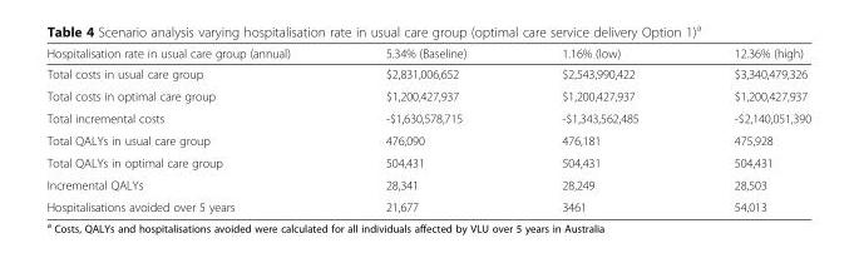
<table><thead><tr><td>Hospitalisation rate in usual care group (annual)</td><td>5.34% (Baseline)</td><td>1.16% (low)</td><td>12.36% (high)</td></tr></thead><tbody><tr><td>Total costs in usual care group</td><td>$2,831,006,652</td><td>$2,543,990,422</td><td>$3,340,479,326</td></tr><tr><td>Total costs in optimal care group</td><td>$1,200,427,937</td><td>$1,200,427,937</td><td>$1,200,427,937</td></tr><tr><td>Total incremental costs</td><td>-$1,630,578,715</td><td>-$1,343,562,485</td><td>-$2,140,051,390</td></tr><tr><td>Total QALYs in usual care group</td><td>476,090</td><td>476,181</td><td>475,928</td></tr><tr><td>Total QALYs in optimal care group</td><td>504,431</td><td>504,431</td><td>504,431</td></tr><tr><td>Incremental QALYs</td><td>28,341</td><td>28,249</td><td>28,503</td></tr><tr><td>Hospitalisations avoided over 5 years</td><td>21,677</td><td>3461</td><td>54,013</td></tr></tbody></table>